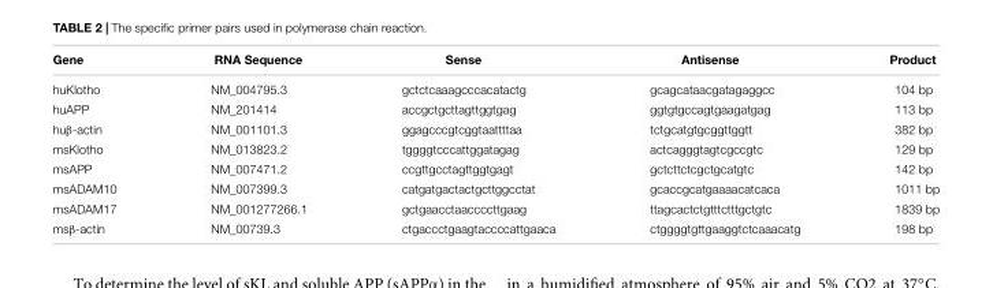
<table><thead><tr><td>Gene</td><td>RNA Sequence</td><td>Sense</td><td>Antisense</td><td>Product</td></tr></thead><tbody><tr><td>huKlotho</td><td>NM_004795.3</td><td>gctctcaaagcccacatactg</td><td>gcagcataacgatagaggcc</td><td>104 bp</td></tr><tr><td>huAPP</td><td>NM_201414</td><td>accgctgcttagttggtgag</td><td>ggtgtgccagtgaagatgag</td><td>113 bp</td></tr><tr><td>huβ-actin</td><td>NM_001101.3</td><td>ggagcccgtcggtaattttaa</td><td>tctgcatgtgcggttggtt</td><td>382 bp</td></tr><tr><td>msKlotho</td><td>NM_013823.2</td><td>tggggtcccattggatagag</td><td>actcagggtagtcgccgtc</td><td>129 bp</td></tr><tr><td>msAPP</td><td>NM_007471.2</td><td>ccgttgcctagttggtgagt</td><td>gctcttctcgctgcatgtc</td><td>142 bp</td></tr><tr><td>msADAM10</td><td>NM_007399.3</td><td>catgatgactactgcttggcctat</td><td>gcaccgcatgaaaacatcaca</td><td>1011 bp</td></tr><tr><td>msADAM17</td><td>NM_001277266.1</td><td>gctgaacctaaccccttgaag</td><td>ttagcactctgtttctttgctgtc</td><td>1839 bp</td></tr><tr><td>msβ-actin</td><td>NM_00739.3</td><td>ctgaccctgaagtaccccattgaaca</td><td>ctggggtgttgaaggtctcaaacatg</td><td>198 bp</td></tr></tbody></table>